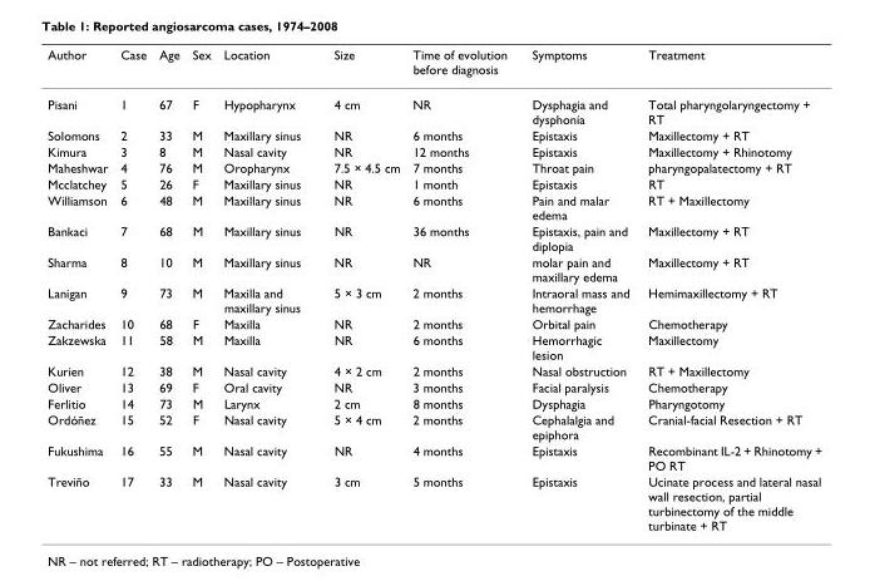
<table><thead><tr><td>Author</td><td>Case</td><td>Age</td><td>Sex</td><td>Location</td><td>Size</td><td>Time of evolution before diagnosis</td><td>Symptoms</td><td>Treatment</td></tr></thead><tbody><tr><td>Pisani</td><td>1</td><td>67</td><td>F</td><td>Hypopharynx</td><td>4 cm</td><td>NR</td><td>Dysphagia and dysphonía</td><td>Total pharyngolaryngectomy + RT</td></tr><tr><td>Solomons</td><td>2</td><td>33</td><td>M</td><td>Maxillary sinus</td><td>NR</td><td>6 months</td><td>Epistaxis</td><td>Maxillectomy + RT</td></tr><tr><td>Kimura</td><td>3</td><td>8</td><td>M</td><td>Nasal cavity</td><td>NR</td><td>12 months</td><td>Epistaxis</td><td>Maxillectomy + Rhinotomy</td></tr><tr><td>Maheshwar</td><td>4</td><td>76</td><td>M</td><td>Oropharynx</td><td>7.5 × 4.5 cm</td><td>7 months</td><td>Throat pain</td><td>pharyngopalatectomy + RT</td></tr><tr><td>Mcclatchey</td><td>5</td><td>26</td><td>F</td><td>Maxillary sinus</td><td>NR</td><td>1 month</td><td>Epistaxis</td><td>RT</td></tr><tr><td>Williamson</td><td>6</td><td>48</td><td>M</td><td>Maxillary sinus</td><td>NR</td><td>6 months</td><td>Pain and malar edema</td><td>RT + Maxillectomy</td></tr><tr><td>Bankaci</td><td>7</td><td>68</td><td>M</td><td>Maxillary sinus</td><td>NR</td><td>36 months</td><td>Epistaxis, pain and diplopia</td><td>Maxillectomy + RT</td></tr><tr><td>Sharma</td><td>8</td><td>10</td><td>M</td><td>Maxillary sinus</td><td>NR</td><td>NR</td><td>molar pain and maxillary edema</td><td>Maxillectomy + RT</td></tr><tr><td>Lanigan</td><td>9</td><td>73</td><td>M</td><td>Maxilla and maxillary sinus</td><td>5 × 3 cm</td><td>2 months</td><td>Intraoral mass and hemorrhage</td><td>Hemimaxillectomy + RT</td></tr><tr><td>Zacharides</td><td>10</td><td>68</td><td>F</td><td>Maxilla</td><td>NR</td><td>2 months</td><td>Orbital pain</td><td>Chemotherapy</td></tr><tr><td>Zakzewska</td><td>11</td><td>58</td><td>M</td><td>Maxilla</td><td>NR</td><td>6 months</td><td>Hemorrhagic lesion</td><td>Maxillectomy</td></tr><tr><td>Kurien</td><td>12</td><td>38</td><td>M</td><td>Nasal cavity</td><td>4 × 2 cm</td><td>2 months</td><td>Nasal obstruction</td><td>RT + Maxillectomy</td></tr><tr><td>Oliver</td><td>13</td><td>69</td><td>F</td><td>Oral cavity</td><td>NR</td><td>3 months</td><td>Facial paralysis</td><td>Chemotherapy</td></tr><tr><td>Ferlitio</td><td>14</td><td>73</td><td>M</td><td>Larynx</td><td>2 cm</td><td>8 months</td><td>Dysphagia</td><td>Pharyngotomy</td></tr><tr><td>Ordóñez</td><td>15</td><td>52</td><td>F</td><td>Nasal cavity</td><td>5 × 4 cm</td><td>2 months</td><td>Cephalalgia and epiphora</td><td>Cranial-facial Resection + RT</td></tr><tr><td>Fukushima</td><td>16</td><td>55</td><td>M</td><td>Nasal cavity</td><td>NR</td><td>4 months</td><td>Epistaxis</td><td>Recombinant IL-2 + Rhinotomy + PO RT</td></tr><tr><td>Treviño</td><td>17</td><td>33</td><td>M</td><td>Nasal cavity</td><td>3 cm</td><td>5 months</td><td>Epistaxis</td><td>Ucinate process and lateral nasal wall resection, partial turbinectomy of the middle turbinate + RT</td></tr></tbody></table>